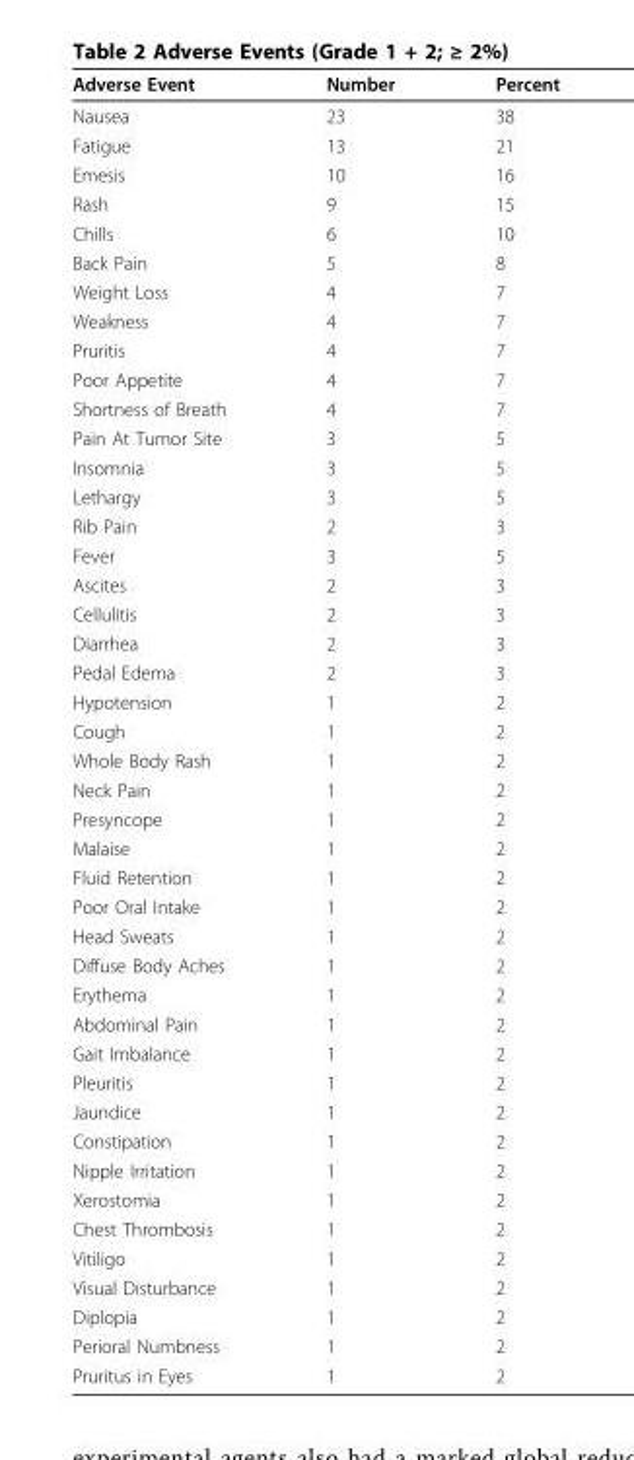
<table><thead><tr><td>Adverse Event</td><td>Number</td><td>Percent</td></tr></thead><tbody><tr><td>Nausea</td><td>23</td><td>38</td></tr><tr><td>Fatigue</td><td>13</td><td>21</td></tr><tr><td>Emesis</td><td>10</td><td>16</td></tr><tr><td>Rash</td><td>9</td><td>15</td></tr><tr><td>Chills</td><td>6</td><td>10</td></tr><tr><td>Back Pain</td><td>5</td><td>8</td></tr><tr><td>Weight Loss</td><td>4</td><td>7</td></tr><tr><td>Weakness</td><td>4</td><td>7</td></tr><tr><td>Pruritis</td><td>4</td><td>7</td></tr><tr><td>Poor Appetite</td><td>4</td><td>7</td></tr><tr><td>Shortness of Breath</td><td>4</td><td>7</td></tr><tr><td>Pain At Tumor Site</td><td>3</td><td>5</td></tr><tr><td>Insomnia</td><td>3</td><td>5</td></tr><tr><td>Lethargy</td><td>3</td><td>5</td></tr><tr><td>Rib Pain</td><td>2</td><td>3</td></tr><tr><td>Fever</td><td>3</td><td>5</td></tr><tr><td>Ascites</td><td>2</td><td>3</td></tr><tr><td>Cellulitis</td><td>2</td><td>3</td></tr><tr><td>Diarrhea</td><td>2</td><td>3</td></tr><tr><td>Pedal Edema</td><td>2</td><td>3</td></tr><tr><td>Hypotension</td><td>1</td><td>2</td></tr><tr><td>Cough</td><td>1</td><td>2</td></tr><tr><td>Whole Body Rash</td><td>1</td><td>2</td></tr><tr><td>Neck Pain</td><td>1</td><td>2</td></tr><tr><td>Presyncope</td><td>1</td><td>2</td></tr><tr><td>Malaise</td><td>1</td><td>2</td></tr><tr><td>Fluid Retention</td><td>1</td><td>2</td></tr><tr><td>Poor Oral Intake</td><td>1</td><td>2</td></tr><tr><td>Head Sweats</td><td>1</td><td>2</td></tr><tr><td>Diffuse Body Aches</td><td>1</td><td>2</td></tr><tr><td>Erythema</td><td>1</td><td>2</td></tr><tr><td>Abdominal Pain</td><td>1</td><td>2</td></tr><tr><td>Gait Imbalance</td><td>1</td><td>2</td></tr><tr><td>Pleuritis</td><td>1</td><td>2</td></tr><tr><td>Jaundice</td><td>1</td><td>2</td></tr><tr><td>Constipation</td><td>1</td><td>2</td></tr><tr><td>Nipple Irritation</td><td>1</td><td>2</td></tr><tr><td>Xerostomia</td><td>1</td><td>2</td></tr><tr><td>Chest Thrombosis</td><td>1</td><td>2</td></tr><tr><td>Vitiligo</td><td>1</td><td>2</td></tr><tr><td>Visual Disturbance</td><td>1</td><td>2</td></tr><tr><td>Diplopia</td><td>1</td><td>2</td></tr><tr><td>Perioral Numbness</td><td>1</td><td>2</td></tr><tr><td>Pruritus in Eyes</td><td>1</td><td>2</td></tr></tbody></table>